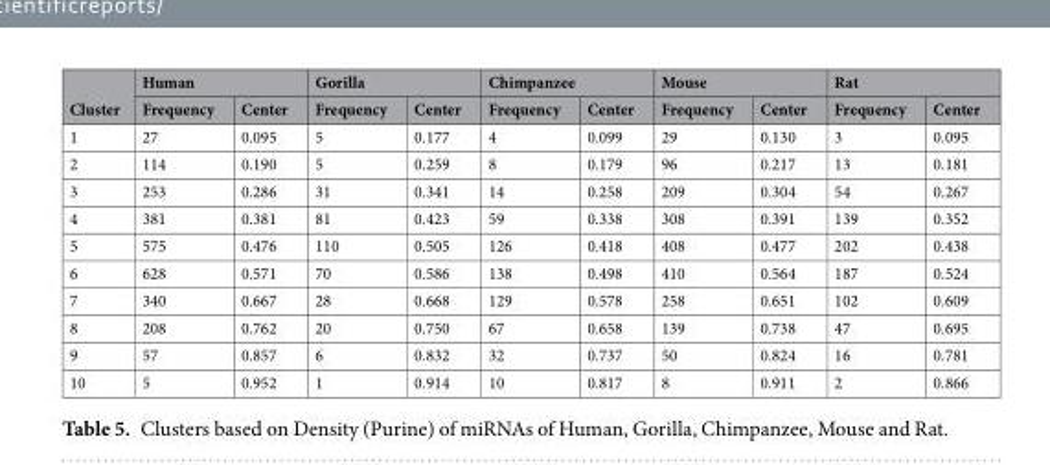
<table><thead><tr><td rowspan="2">Cluster</td><td colspan="2">Human</td><td colspan="2">Gorilla</td><td colspan="2">Chimpanzee</td><td colspan="2">Mouse</td><td colspan="2">Rat</td></tr><tr><td>Frequency</td><td>Center</td><td>Frequency</td><td>Center</td><td>Frequency</td><td>Center</td><td>Frequency</td><td>Center</td><td>Frequency</td><td>Center</td></tr></thead><tbody><tr><td>1</td><td>27</td><td>0.095</td><td>5</td><td>0.177</td><td>4</td><td>0.099</td><td>29</td><td>0.130</td><td>3</td><td>0.095</td></tr><tr><td>2</td><td>114</td><td>0.190</td><td>5</td><td>0.259</td><td>8</td><td>0.179</td><td>96</td><td>0.217</td><td>13</td><td>0.181</td></tr><tr><td>3</td><td>253</td><td>0.286</td><td>31</td><td>0.341</td><td>14</td><td>0.258</td><td>209</td><td>0.304</td><td>54</td><td>0.267</td></tr><tr><td>4</td><td>381</td><td>0.381</td><td>81</td><td>0.423</td><td>59</td><td>0.338</td><td>308</td><td>0.391</td><td>139</td><td>0.352</td></tr><tr><td>5</td><td>575</td><td>0.476</td><td>110</td><td>0.505</td><td>126</td><td>0.418</td><td>408</td><td>0.477</td><td>202</td><td>0.438</td></tr><tr><td>6</td><td>628</td><td>0.571</td><td>70</td><td>0.586</td><td>138</td><td>0.498</td><td>410</td><td>0.564</td><td>187</td><td>0.524</td></tr><tr><td>7</td><td>340</td><td>0.667</td><td>28</td><td>0.668</td><td>129</td><td>0.578</td><td>258</td><td>0.651</td><td>102</td><td>0.609</td></tr><tr><td>8</td><td>208</td><td>0.762</td><td>20</td><td>0.750</td><td>67</td><td>0.658</td><td>139</td><td>0.738</td><td>47</td><td>0.695</td></tr><tr><td>9</td><td>57</td><td>0.857</td><td>6</td><td>0.832</td><td>32</td><td>0.737</td><td>50</td><td>0.824</td><td>16</td><td>0.781</td></tr><tr><td>10</td><td>5</td><td>0.952</td><td>1</td><td>0.914</td><td>10</td><td>0.817</td><td>8</td><td>0.911</td><td>2</td><td>0.866</td></tr></tbody></table>